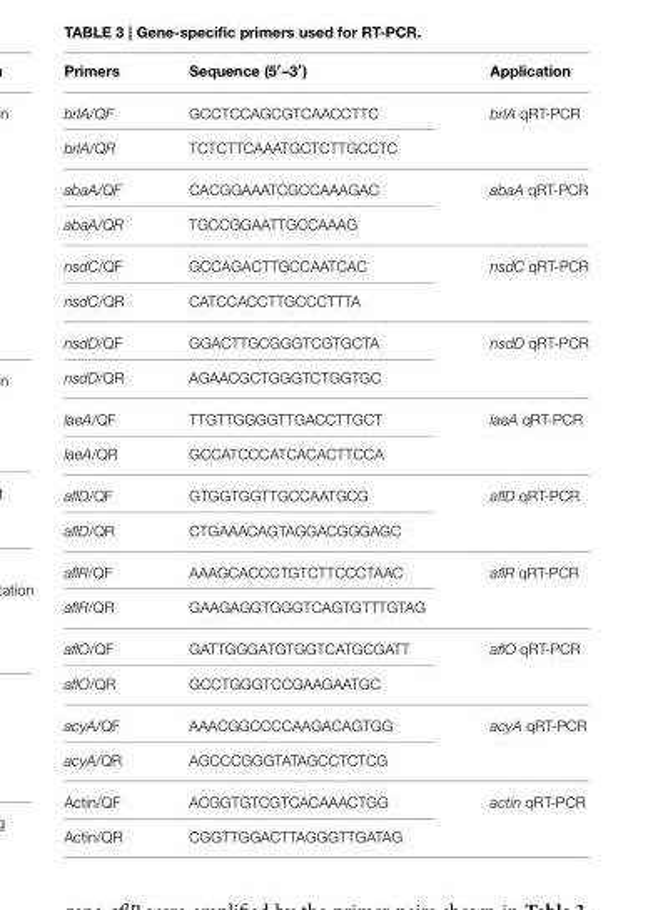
<table><thead><tr><td>Primers</td><td>Sequence (5′–3′)</td><td>Application</td></tr></thead><tbody><tr><td>brlA/QF</td><td>GCCTCCAGCGTCAACCTTC</td><td>brlA qRT-PCR</td></tr><tr><td>brlA/QR</td><td>TCTCTTCAAATGCTCTTGCCTC</td><td></td></tr><tr><td>abaA/QF</td><td>CACGGAAATCGCCAAAGAC</td><td>abaA qRT-PCR</td></tr><tr><td>abaA/QR</td><td>TGCCGGAATTGCCAAAG</td><td></td></tr><tr><td>nsdC/QF</td><td>GCCAGACTTGCCAATCAC</td><td>nsdC qRT-PCR</td></tr><tr><td>nsdC/QR</td><td>CATCCACCTTGCCCTTTA</td><td></td></tr><tr><td>nsdD/QF</td><td>GGACTTGCGGGTCGTGCTA</td><td>nsdD qRT-PCR</td></tr><tr><td>nsdD/QR</td><td>AGAACGCTGGGTCTGGTGC</td><td></td></tr><tr><td>laeA/QF</td><td>TTGTTGGGGTTGACCTTGCT</td><td>laeA qRT-PCR</td></tr><tr><td>laeA/QR</td><td>GCCATCCCATCACACTTCCA</td><td></td></tr><tr><td>aflD/QF</td><td>GTGGTGGTTGCCAATGCG</td><td>aflD qRT-PCR</td></tr><tr><td>aflD/QR</td><td>CTGAAACAGTAGGACGGGAGC</td><td></td></tr><tr><td>aflR/QF</td><td>AAAGCACCCTGTCTTCCCTAAC</td><td>aflR qRT-PCR</td></tr><tr><td>aflR/QR</td><td>GAAGAGGTGGGTCAGTGTTTGTAG</td><td></td></tr><tr><td>aflO/QF</td><td>GATTGGGATGTGGTCATGCGATT</td><td>aflO qRT-PCR</td></tr><tr><td>aflO/QR</td><td>GCCTGGGTCCGAAGAATGC</td><td></td></tr><tr><td>acyA/QF</td><td>AAACGGCCCCAAGACAGTGG</td><td>acyA qRT-PCR</td></tr><tr><td>acyA/QR</td><td>AGCCCGGGTATAGCCTCTCG</td><td></td></tr><tr><td>Actin/QF</td><td>ACGGTGTCGTCACAAACTGG</td><td>actin qRT-PCR</td></tr><tr><td>Actin/QR</td><td>CGGTTGGACTTAGGGTTGATAG</td><td></td></tr></tbody></table>